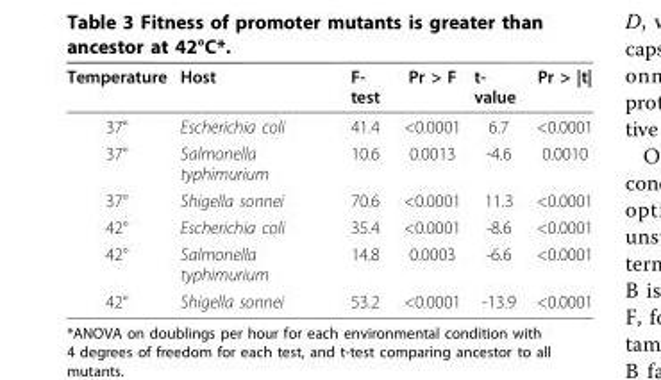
<table><thead><tr><td>Temperature</td><td>Host</td><td>F- test</td><td>Pr &gt; F</td><td>t- value</td><td>Pr &gt; |t|</td></tr></thead><tbody><tr><td>37°</td><td>Escherichia coli</td><td>41.4</td><td>&lt;0.0001</td><td>6.7</td><td>&lt;0.0001</td></tr><tr><td>37°</td><td>Salmonella typhimurium</td><td>10.6</td><td>0.0013</td><td>-4.6</td><td>0.0010</td></tr><tr><td>37°</td><td>Shigella sonnei</td><td>70.6</td><td>&lt;0.0001</td><td>11.3</td><td>&lt;0.0001</td></tr><tr><td>42°</td><td>Escherichia coli</td><td>35.4</td><td>&lt;0.0001</td><td>-8.6</td><td>&lt;0.0001</td></tr><tr><td>42°</td><td>Salmonella typhimurium</td><td>14.8</td><td>0.0003</td><td>-6.6</td><td>&lt;0.0001</td></tr><tr><td>42°</td><td>Shigella sonnei</td><td>53.2</td><td>&lt;0.0001</td><td>-13.9</td><td>&lt;0.0001</td></tr></tbody></table>